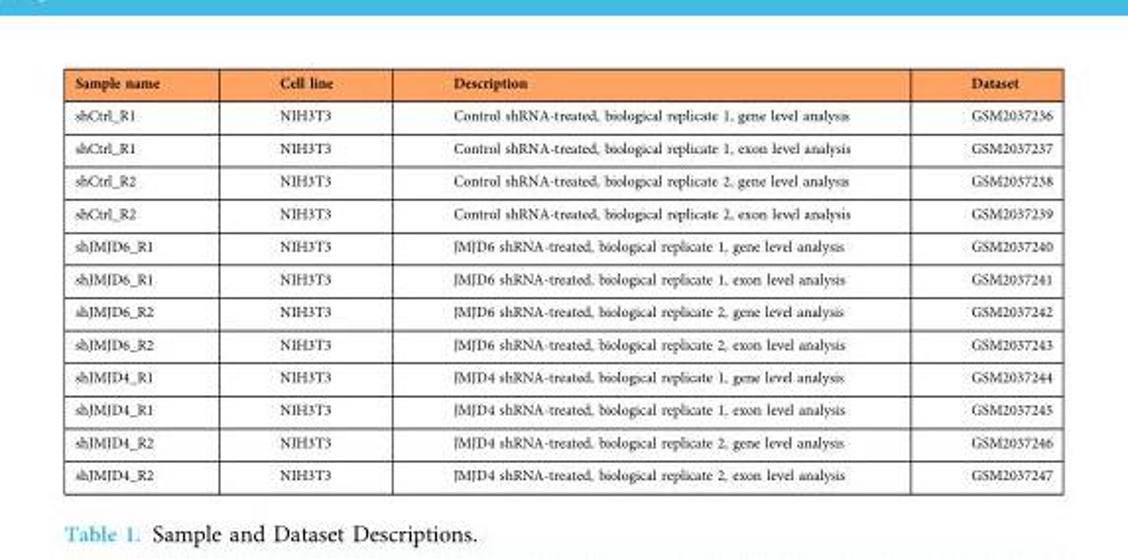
<table><thead><tr><td>Sample name</td><td>Cell line</td><td>Description</td><td>Dataset</td></tr></thead><tbody><tr><td>shCtrl_R1</td><td>NIH3T3</td><td>Control shRNA-treated, biological replicate 1, gene level analysis</td><td>GSM2037236</td></tr><tr><td>shCtrl_R1</td><td>NIH3T3</td><td>Control shRNA-treated, biological replicate 1, exon level analysis</td><td>GSM2037237</td></tr><tr><td>shCtrl_R2</td><td>NIH3T3</td><td>Control shRNA-treated, biological replicate 2, gene level analysis</td><td>GSM2037238</td></tr><tr><td>shCtrl_R2</td><td>NIH3T3</td><td>Control shRNA-treated, biological replicate 2, exon level analysis</td><td>GSM2037239</td></tr><tr><td>shJMJD6_R1</td><td>NIH3T3</td><td>JMJD6 shRNA-treated, biological replicate 1, gene level analysis</td><td>GSM2037240</td></tr><tr><td>shJMJD6_R1</td><td>NIH3T3</td><td>JMJD6 shRNA-treated, biological replicate 1, exon level analysis</td><td>GSM2037241</td></tr><tr><td>shJMJD6_R2</td><td>NIH3T3</td><td>JMJD6 shRNA-treated, biological replicate 2, gene level analysis</td><td>GSM2037242</td></tr><tr><td>shJMJD6_R2</td><td>NIH3T3</td><td>JMJD6 shRNA-treated, biological replicate 2, exon level analysis</td><td>GSM2037243</td></tr><tr><td>shJMJD4_R1</td><td>NIH3T3</td><td>JMJD4 shRNA-treated, biological replicate 1, gene level analysis</td><td>GSM2037244</td></tr><tr><td>shJMJD4_R1</td><td>NIH3T3</td><td>JMJD4 shRNA-treated, biological replicate 1, exon level analysis</td><td>GSM2037245</td></tr><tr><td>shJMJD4_R2</td><td>NIH3T3</td><td>JMJD4 shRNA-treated, biological replicate 2, gene level analysis</td><td>GSM2037246</td></tr><tr><td>shJMJD4_R2</td><td>NIH3T3</td><td>JMJD4 shRNA-treated, biological replicate 2, exon level analysis</td><td>GSM2037247</td></tr></tbody></table>